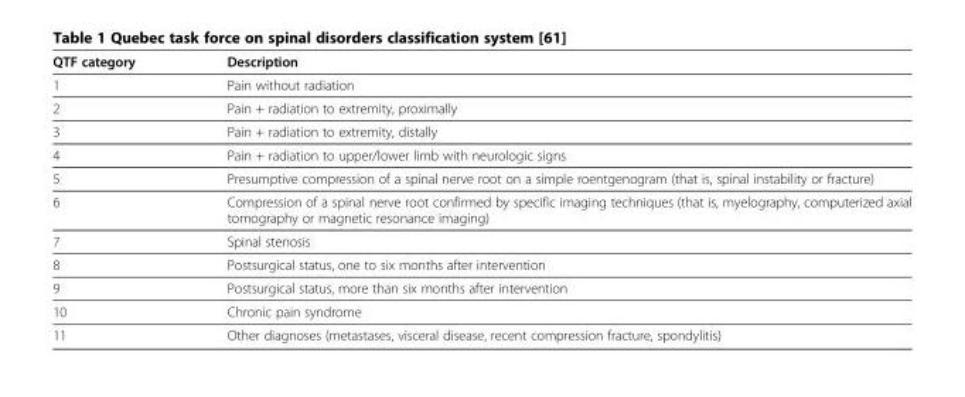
<table><thead><tr><td>QTF category</td><td>Description</td></tr></thead><tbody><tr><td>1</td><td>Pain without radiation</td></tr><tr><td>2</td><td>Pain + radiation to extremity, proximally</td></tr><tr><td>3</td><td>Pain + radiation to extremity, distally</td></tr><tr><td>4</td><td>Pain + radiation to upper/lower limb with neurologic signs</td></tr><tr><td>5</td><td>Presumptive compression of a spinal nerve root on a simple roentgenogram (that is, spinal instability or fracture)</td></tr><tr><td>6</td><td>Compression of a spinal nerve root confirmed by specific imaging techniques (that is, myelography, computerized axial tomography or magnetic resonance imaging)</td></tr><tr><td>7</td><td>Spinal stenosis</td></tr><tr><td>8</td><td>Postsurgical status, one to six months after intervention</td></tr><tr><td>9</td><td>Postsurgical status, more than six months after intervention</td></tr><tr><td>10</td><td>Chronic pain syndrome</td></tr><tr><td>11</td><td>Other diagnoses (metastases, visceral disease, recent compression fracture, spondylitis)</td></tr></tbody></table>